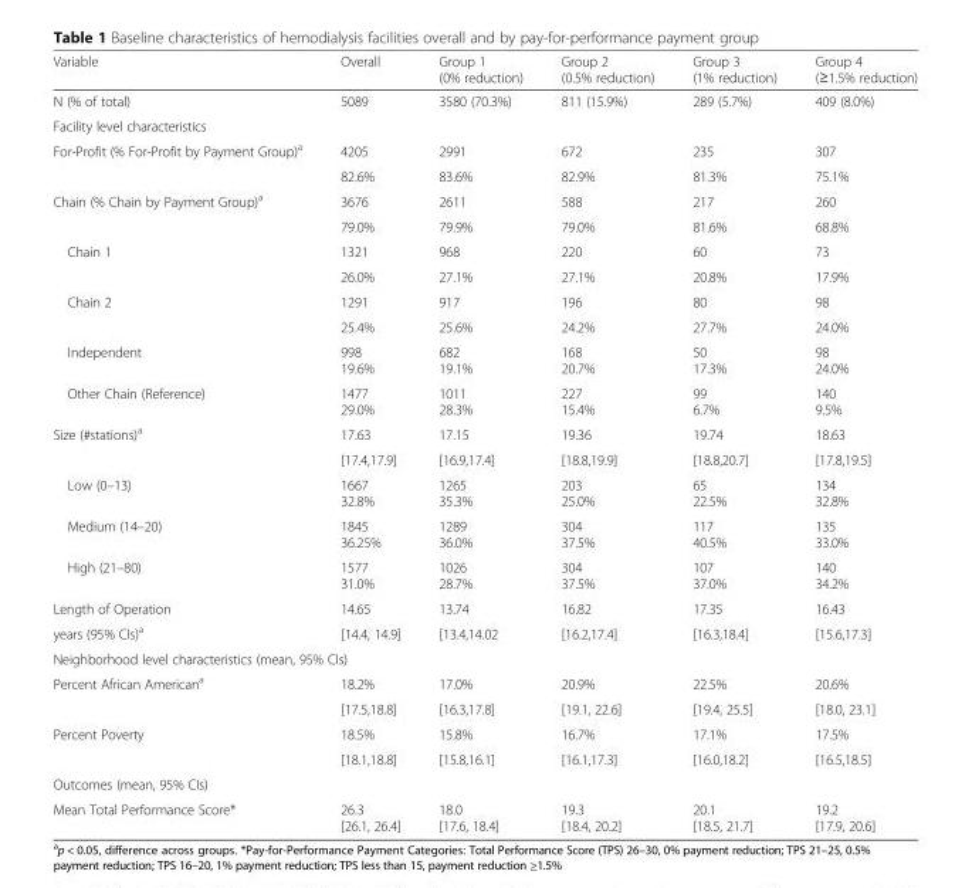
<table><thead><tr><td>Variable</td><td>Overall</td><td>Group 1 (0% reduction)</td><td>Group 2 (0.5% reduction)</td><td>Group 3 (1% reduction)</td><td>Group 4 (≥1.5% reduction)</td></tr></thead><tbody><tr><td>N (% of total)</td><td>5089</td><td>3580 (70.3%)</td><td>811 (15.9%)</td><td>289 (5.7%)</td><td>409 (8.0%)</td></tr><tr><td colspan="6">Facility level characteristics</td></tr><tr><td rowspan="2">For-Profit (% For-Profit by Payment Group)<sup>a</sup></td><td>4205</td><td>2991</td><td>672</td><td>235</td><td>307</td></tr><tr><td>82.6%</td><td>83.6%</td><td>82.9%</td><td>81.3%</td><td>75.1%</td></tr><tr><td rowspan="2">Chain (% Chain by Payment Group)<sup>a</sup></td><td>3676</td><td>2611</td><td>588</td><td>217</td><td>260</td></tr><tr><td>79.0%</td><td>79.9%</td><td>79.0%</td><td>81.6%</td><td>68.8%</td></tr><tr><td rowspan="2">Chain 1</td><td>1321</td><td>968</td><td>220</td><td>60</td><td>73</td></tr><tr><td>26.0%</td><td>27.1%</td><td>27.1%</td><td>20.8%</td><td>17.9%</td></tr><tr><td rowspan="2">Chain 2</td><td>1291</td><td>917</td><td>196</td><td>80</td><td>98</td></tr><tr><td>25.4%</td><td>25.6%</td><td>24.2%</td><td>27.7%</td><td>24.0%</td></tr><tr><td>Independent</td><td>998 19.6%</td><td>682 19.1%</td><td>168 20.7%</td><td>50 17.3%</td><td>98 24.0%</td></tr><tr><td>Other Chain (Reference)</td><td>1477 29.0%</td><td>1011 28.3%</td><td>227 15.4%</td><td>99 6.7%</td><td>140 9.5%</td></tr><tr><td rowspan="2">Size (#stations)<sup>a</sup></td><td>17.63</td><td>17.15</td><td>19.36</td><td>19.74</td><td>18.63</td></tr><tr><td>[17.4,17.9]</td><td>[16.9,17.4]</td><td>[18.8,19.9]</td><td>[18.8,20.7]</td><td>[17.8,19.5]</td></tr><tr><td>Low (0–13)</td><td>1667 32.8%</td><td>1265 35.3%</td><td>203 25.0%</td><td>65 22.5%</td><td>134 32.8%</td></tr><tr><td>Medium (14–20)</td><td>1845 36.25%</td><td>1289 36.0%</td><td>304 37.5%</td><td>117 40.5%</td><td>135 33.0%</td></tr><tr><td>High (21–80)</td><td>1577 31.0%</td><td>1026 28.7%</td><td>304 37.5%</td><td>107 37.0%</td><td>140 34.2%</td></tr><tr><td>Length of Operation</td><td>14.65</td><td>13.74</td><td>16.82</td><td>17.35</td><td>16.43</td></tr><tr><td>years (95% CIs)<sup>a</sup></td><td>[14.4, 14.9]</td><td>[13.4,14.02</td><td>[16.2,17.4]</td><td>[16.3,18.4]</td><td>[15.6,17.3]</td></tr><tr><td colspan="6">Neighborhood level characteristics (mean, 95% CIs)</td></tr><tr><td rowspan="2">Percent African American<sup>a</sup></td><td>18.2%</td><td>17.0%</td><td>20.9%</td><td>22.5%</td><td>20.6%</td></tr><tr><td>[17.5,18.8]</td><td>[16.3,17.8]</td><td>[19.1, 22.6]</td><td>[19.4, 25.5]</td><td>[18.0, 23.1]</td></tr><tr><td rowspan="2">Percent Poverty</td><td>18.5%</td><td>15.8%</td><td>16.7%</td><td>17.1%</td><td>17.5%</td></tr><tr><td>[18.1,18.8]</td><td>[15.8,16.1]</td><td>[16.1,17.3]</td><td>[16.0,18.2]</td><td>[16.5,18.5]</td></tr><tr><td colspan="6">Outcomes (mean, 95% CIs)</td></tr><tr><td>Mean Total Performance Score*</td><td>26.3 [26.1, 26.4]</td><td>18.0 [17.6, 18.4]</td><td>19.3 [18.4, 20.2]</td><td>20.1 [18.5, 21.7]</td><td>19.2 [17.9, 20.6]</td></tr></tbody></table>